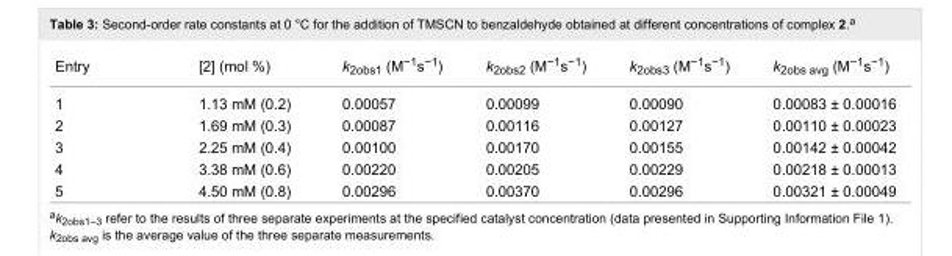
<table><tbody><tr><td>Entry</td><td>[2] (mol %)</td><td>k<sub>2obs1</sub> (M<sup>−1</sup>s<sup>−1</sup>)</td><td>k<sub>2obs2</sub> (M<sup>−1</sup>s<sup>−1</sup>)</td><td>k<sub>2obs3</sub> (M<sup>−1</sup>s<sup>−1</sup>)</td><td>k<sub>2obs avg</sub> (M<sup>−1</sup>s<sup>−1</sup>)</td></tr><tr><td>1</td><td>1.13 mM (0.2)</td><td>0.00057</td><td>0.00099</td><td>0.00090</td><td>0.00083 ± 0.00016</td></tr><tr><td>2</td><td>1.69 mM (0.3)</td><td>0.00087</td><td>0.00116</td><td>0.00127</td><td>0.00110 ± 0.00023</td></tr><tr><td>3</td><td>2.25 mM (0.4)</td><td>0.00100</td><td>0.00170</td><td>0.00155</td><td>0.00142 ± 0.00042</td></tr><tr><td>4</td><td>3.38 mM (0.6)</td><td>0.00220</td><td>0.00205</td><td>0.00229</td><td>0.00218 ± 0.00013</td></tr><tr><td>5</td><td>4.50 mM (0.8)</td><td>0.00296</td><td>0.00370</td><td>0.00296</td><td>0.00321 ± 0.00049</td></tr></tbody></table>